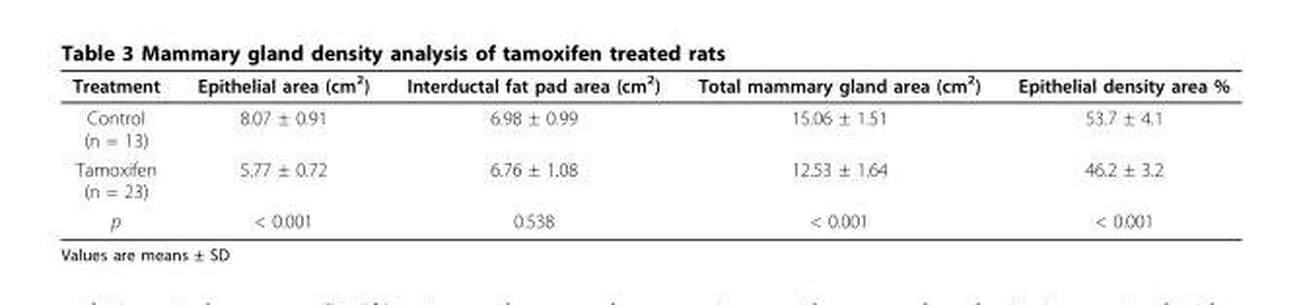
<table><thead><tr><td>Treatment</td><td>Epithelial area (cm<sup>2</sup>)</td><td>Interductal fat pad area (cm<sup>2</sup>)</td><td>Total mammary gland area (cm<sup>2</sup>)</td><td>Epithelial density area %</td></tr></thead><tbody><tr><td>Control (n = 13)</td><td>8.07 ± 0.91</td><td>6.98 ± 0.99</td><td>15.06 ± 1.51</td><td>53.7 ± 4.1</td></tr><tr><td>Tamoxifen (n = 23)</td><td>5.77 ± 0.72</td><td>6.76 ± 1.08</td><td>12.53 ± 1.64</td><td>46.2 ± 3.2</td></tr><tr><td>p</td><td>&lt; 0.001</td><td>0.538</td><td>&lt; 0.001</td><td>&lt; 0.001</td></tr></tbody></table>